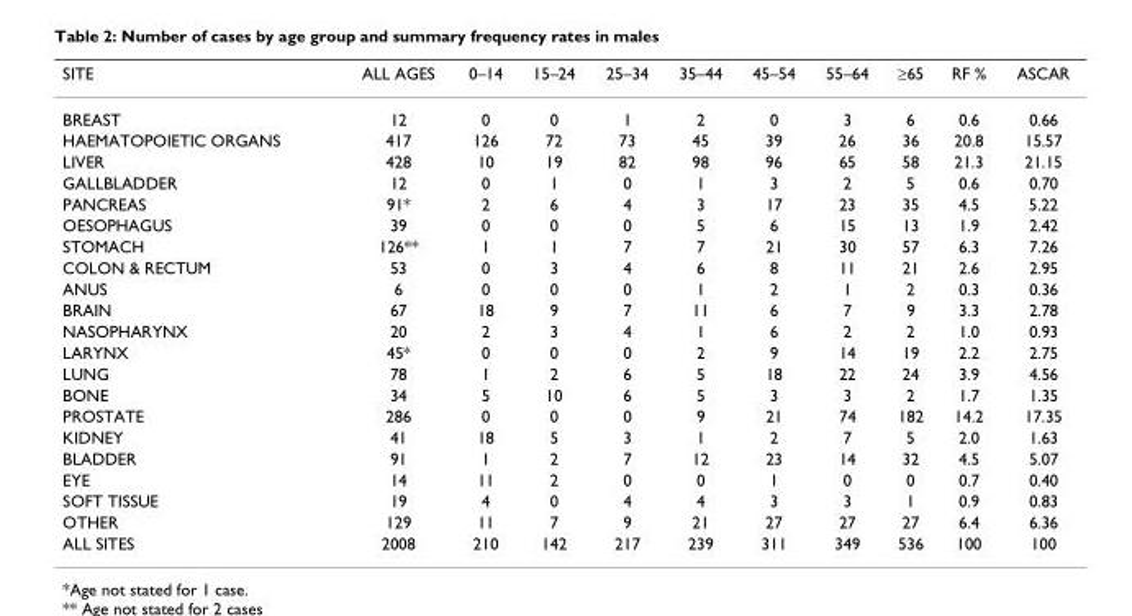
<table><thead><tr><td>SITE</td><td>ALL AGES</td><td>0–14</td><td>15–24</td><td>25–34</td><td>35–44</td><td>45–54</td><td>55–64</td><td>≥65</td><td>RF %</td><td>ASCAR</td></tr></thead><tbody><tr><td>BREAST</td><td>12</td><td>0</td><td>0</td><td>1</td><td>2</td><td>0</td><td>3</td><td>6</td><td>0.6</td><td>0.66</td></tr><tr><td>HAEMATOPOIETIC ORGANS</td><td>417</td><td>126</td><td>72</td><td>73</td><td>45</td><td>39</td><td>26</td><td>36</td><td>20.8</td><td>15.57</td></tr><tr><td>LIVER</td><td>428</td><td>10</td><td>19</td><td>82</td><td>98</td><td>96</td><td>65</td><td>58</td><td>21.3</td><td>21.15</td></tr><tr><td>GALLBLADDER</td><td>12</td><td>0</td><td>1</td><td>0</td><td>1</td><td>3</td><td>2</td><td>5</td><td>0.6</td><td>0.70</td></tr><tr><td>PANCREAS</td><td>91*</td><td>2</td><td>6</td><td>4</td><td>3</td><td>17</td><td>23</td><td>35</td><td>4.5</td><td>5.22</td></tr><tr><td>OESOPHAGUS</td><td>39</td><td>0</td><td>0</td><td>0</td><td>5</td><td>6</td><td>15</td><td>13</td><td>1.9</td><td>2.42</td></tr><tr><td>STOMACH</td><td>126**</td><td>1</td><td>1</td><td>7</td><td>7</td><td>21</td><td>30</td><td>57</td><td>6.3</td><td>7.26</td></tr><tr><td>COLON &amp; RECTUM</td><td>53</td><td>0</td><td>3</td><td>4</td><td>6</td><td>8</td><td>11</td><td>21</td><td>2.6</td><td>2.95</td></tr><tr><td>ANUS</td><td>6</td><td>0</td><td>0</td><td>0</td><td>1</td><td>2</td><td>1</td><td>2</td><td>0.3</td><td>0.36</td></tr><tr><td>BRAIN</td><td>67</td><td>18</td><td>9</td><td>7</td><td>11</td><td>6</td><td>7</td><td>9</td><td>3.3</td><td>2.78</td></tr><tr><td>NASOPHARYNX</td><td>20</td><td>2</td><td>3</td><td>4</td><td>1</td><td>6</td><td>2</td><td>2</td><td>1.0</td><td>0.93</td></tr><tr><td>LARYNX</td><td>45*</td><td>0</td><td>0</td><td>0</td><td>2</td><td>9</td><td>14</td><td>19</td><td>2.2</td><td>2.75</td></tr><tr><td>LUNG</td><td>78</td><td>1</td><td>2</td><td>6</td><td>5</td><td>18</td><td>22</td><td>24</td><td>3.9</td><td>4.56</td></tr><tr><td>BONE</td><td>34</td><td>5</td><td>10</td><td>6</td><td>5</td><td>3</td><td>3</td><td>2</td><td>1.7</td><td>1.35</td></tr><tr><td>PROSTATE</td><td>286</td><td>0</td><td>0</td><td>0</td><td>9</td><td>21</td><td>74</td><td>182</td><td>14.2</td><td>17.35</td></tr><tr><td>KIDNEY</td><td>41</td><td>18</td><td>5</td><td>3</td><td>1</td><td>2</td><td>7</td><td>5</td><td>2.0</td><td>1.63</td></tr><tr><td>BLADDER</td><td>91</td><td>1</td><td>2</td><td>7</td><td>12</td><td>23</td><td>14</td><td>32</td><td>4.5</td><td>5.07</td></tr><tr><td>EYE</td><td>14</td><td>11</td><td>2</td><td>0</td><td>0</td><td>1</td><td>0</td><td>0</td><td>0.7</td><td>0.40</td></tr><tr><td>SOFT TISSUE</td><td>19</td><td>4</td><td>0</td><td>4</td><td>4</td><td>3</td><td>3</td><td>1</td><td>0.9</td><td>0.83</td></tr><tr><td>OTHER</td><td>129</td><td>11</td><td>7</td><td>9</td><td>21</td><td>27</td><td>27</td><td>27</td><td>6.4</td><td>6.36</td></tr><tr><td>ALL SITES</td><td>2008</td><td>210</td><td>142</td><td>217</td><td>239</td><td>311</td><td>349</td><td>536</td><td>100</td><td>100</td></tr></tbody></table>